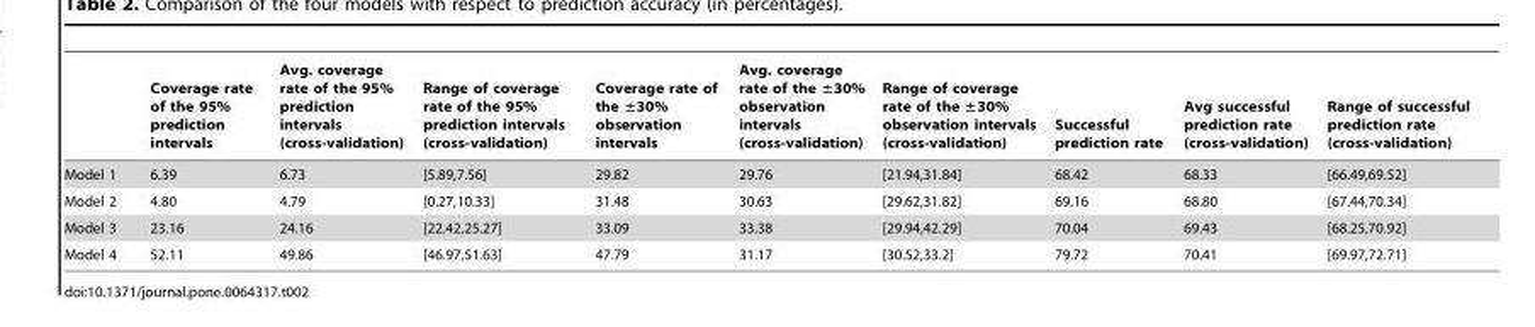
<table><thead><tr><td></td><td>Coverage rate of the 95% prediction intervals</td><td>Avg. coverage rate of the 95% prediction intervals (cross-validation)</td><td>Range of coverage rate of the 95% prediction intervals (cross-validation)</td><td>Coverage rate of the ±30% observation intervals</td><td>Avg. coverage rate of the ±30% observation intervals (cross-validation)</td><td>Range of coverage rate of the ±30% observation intervals (cross-validation)</td><td>Successful prediction rate</td><td>Avg successful prediction rate (cross-validation)</td><td>Range of successful prediction rate (cross-validation)</td></tr></thead><tbody><tr><td>Model 1</td><td>6.39</td><td>6.73</td><td>[5.89,7.56]</td><td>29.82</td><td>29.76</td><td>[21.94,31.84]</td><td>68.42</td><td>68.33</td><td>[66.49,69.52]</td></tr><tr><td>Model 2</td><td>4.80</td><td>4.79</td><td>[0.27,10.33]</td><td>31.48</td><td>30.63</td><td>[29.62,31.82]</td><td>69.16</td><td>68.80</td><td>[67.44,70.34]</td></tr><tr><td>Model 3</td><td>23.16</td><td>24.16</td><td>[22.42,25.27]</td><td>33.09</td><td>33.38</td><td>[29.94,42.29]</td><td>70.04</td><td>69.43</td><td>[68.25,70.92]</td></tr><tr><td>Model 4</td><td>52.11</td><td>49.86</td><td>[46.97,51.63]</td><td>47.79</td><td>31.17</td><td>[30.52,33.2]</td><td>79.72</td><td>70.41</td><td>[69.97,72.71]</td></tr></tbody></table>